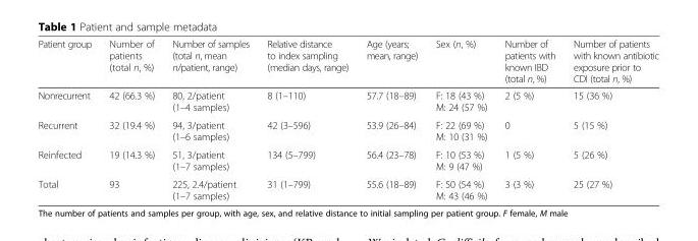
<table><thead><tr><td>Patient group</td><td>Number of patients (total n, %)</td><td>Number of samples (total n, mean n/patient, range)</td><td>Relative distance to index sampling (median days, range)</td><td>Age (years; mean, range)</td><td>Sex (n, %)</td><td>Number of patients with known IBD (total n, %)</td><td>Number of patients with known antibiotic exposure prior to CDI (total n, %)</td></tr></thead><tbody><tr><td>Nonrecurrent</td><td>42 (66.3 %)</td><td>80, 2/patient (1–4 samples)</td><td>8 (1–110)</td><td>57.7 (18–89)</td><td>F: 18 (43 %) M: 24 (57 %)</td><td>2 (5 %)</td><td>15 (36 %)</td></tr><tr><td>Recurrent</td><td>32 (19.4 %)</td><td>94, 3/patient (1–6 samples)</td><td>42 (3–596)</td><td>53.9 (26–84)</td><td>F: 22 (69 %) M: 10 (31 %)</td><td>0</td><td>5 (15 %)</td></tr><tr><td>Reinfected</td><td>19 (14.3 %)</td><td>51, 3/patient (1–7 samples)</td><td>134 (5–799)</td><td>56.4 (23–78)</td><td>F: 10 (53 %) M: 9 (47 %)</td><td>1 (5 %)</td><td>5 (26 %)</td></tr><tr><td>Total</td><td>93</td><td>225, 2.4/patient (1–7 samples)</td><td>31 (1–799)</td><td>55.6 (18–89)</td><td>F: 50 (54 %) M: 43 (46 %)</td><td>3 (3 %)</td><td>25 (27 %)</td></tr></tbody></table>